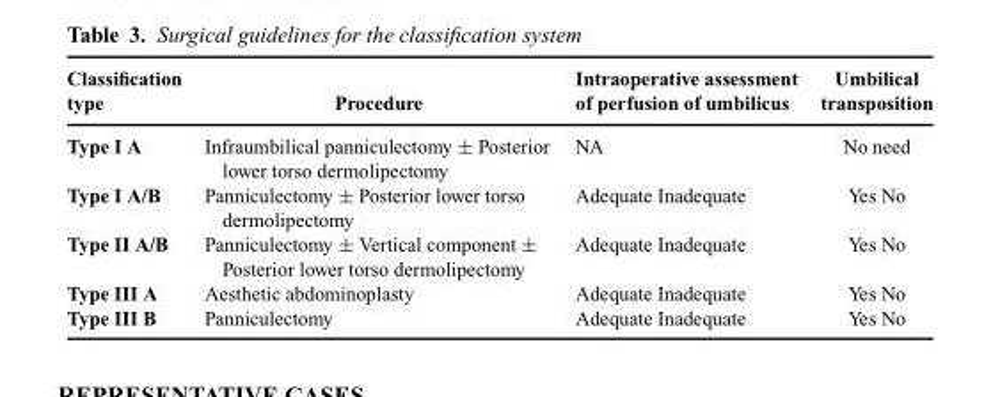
<table><thead><tr><td>Classification type</td><td>Procedure</td><td>Intraoperative assessment of perfusion of umbilicus</td><td>Umbilical transposition</td></tr></thead><tbody><tr><td>Type I A</td><td>Infraumbilical panniculectomy ± Posterior lower torso dermolipectomy</td><td>NA</td><td>No need</td></tr><tr><td>Type I A/B</td><td>Panniculectomy ± Posterior lower torso dermolipectomy</td><td>Adequate Inadequate</td><td>Yes No</td></tr><tr><td>Type II A/B</td><td>Panniculectomy ± Vertical component ± Posterior lower torso dermolipectomy</td><td>Adequate Inadequate</td><td>Yes No</td></tr><tr><td>Type III A</td><td>Aesthetic abdominoplasty</td><td>Adequate Inadequate</td><td>Yes No</td></tr><tr><td>Type III B</td><td>Panniculectomy</td><td>Adequate Inadequate</td><td>Yes No</td></tr></tbody></table>